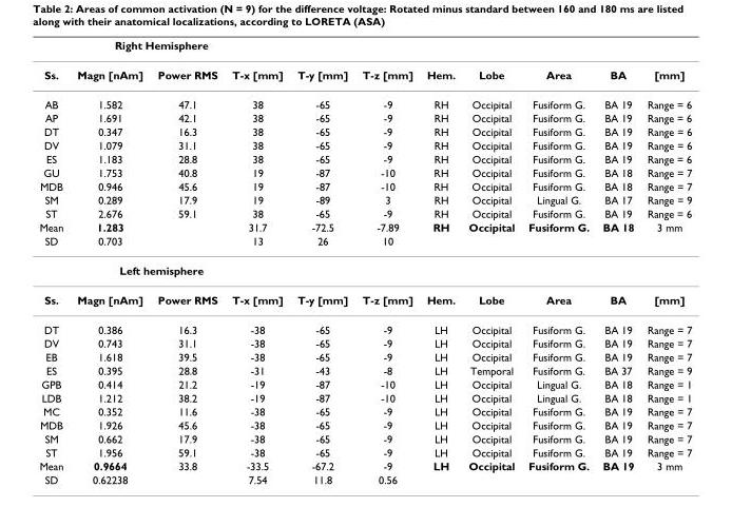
<table><thead><tr><td colspan="4">Right Hemisphere</td><td rowspan="2">T-y [mm]</td><td rowspan="2">T-z [mm]</td><td rowspan="2">Hem.</td><td rowspan="2">Lobe</td><td rowspan="2">Area</td><td rowspan="2">BA</td><td rowspan="2">[mm]</td></tr><tr><td>Ss.</td><td>Magn [nAm]</td><td>Power RMS</td><td>T-x [mm]</td></tr></thead><tbody><tr><td>AB</td><td>1.582</td><td>47.1</td><td>38</td><td>-65</td><td>-9</td><td>RH</td><td>Occipital</td><td>Fusiform G.</td><td>BA 19</td><td>Range = 6</td></tr><tr><td>AP</td><td>1.691</td><td>42.1</td><td>38</td><td>-65</td><td>-9</td><td>RH</td><td>Occipital</td><td>Fusiform G.</td><td>BA 19</td><td>Range = 6</td></tr><tr><td>DT</td><td>0.347</td><td>16.3</td><td>38</td><td>-65</td><td>-9</td><td>RH</td><td>Occipital</td><td>Fusiform G.</td><td>BA 19</td><td>Range = 6</td></tr><tr><td>DV</td><td>1.079</td><td>31.1</td><td>38</td><td>-65</td><td>-9</td><td>RH</td><td>Occipital</td><td>Fusiform G.</td><td>BA 19</td><td>Range = 6</td></tr><tr><td>ES</td><td>1.183</td><td>28.8</td><td>38</td><td>-65</td><td>-9</td><td>RH</td><td>Occipital</td><td>Fusiform G.</td><td>BA 19</td><td>Range = 6</td></tr><tr><td>GU</td><td>1.753</td><td>40.8</td><td>19</td><td>-87</td><td>-10</td><td>RH</td><td>Occipital</td><td>Fusiform G.</td><td>BA 18</td><td>Range = 7</td></tr><tr><td>MDB</td><td>0.946</td><td>45.6</td><td>19</td><td>-87</td><td>-10</td><td>RH</td><td>Occipital</td><td>Fusiform G.</td><td>BA 18</td><td>Range = 7</td></tr><tr><td>SM</td><td>0.289</td><td>17.9</td><td>19</td><td>-89</td><td>3</td><td>RH</td><td>Occipital</td><td>Lingual G.</td><td>BA 17</td><td>Range = 9</td></tr><tr><td>ST</td><td>2.676</td><td>59.1</td><td>38</td><td>-65</td><td>-9</td><td>RH</td><td>Occipital</td><td>Fusiform G.</td><td>BA 19</td><td>Range = 6</td></tr><tr><td>Mean</td><td>1.283</td><td></td><td>31.7</td><td>-72.5</td><td>-7.89</td><td>RH</td><td>Occipital</td><td>Fusiform G.</td><td>BA 18</td><td>3 mm</td></tr><tr><td>SD</td><td>0.703</td><td></td><td>13</td><td>26</td><td>10</td><td></td><td></td><td></td><td></td><td></td></tr><tr><td colspan="11">Left hemisphere</td></tr><tr><td>Ss.</td><td>Magn [nAm]</td><td>Power RMS</td><td>T-x [mm]</td><td>T-y [mm]</td><td>T-z [mm]</td><td>Hem.</td><td>Lobe</td><td>Area</td><td>BA</td><td>[mm]</td></tr><tr><td>DT</td><td>0.386</td><td>16.3</td><td>-38</td><td>-65</td><td>-9</td><td>LH</td><td>Occipital</td><td>Fusiform G.</td><td>BA 19</td><td>Range = 7</td></tr><tr><td>DV</td><td>0.743</td><td>31.1</td><td>-38</td><td>-65</td><td>-9</td><td>LH</td><td>Occipital</td><td>Fusiform G.</td><td>BA 19</td><td>Range = 7</td></tr><tr><td>EB</td><td>1.618</td><td>39.5</td><td>-38</td><td>-65</td><td>-9</td><td>LH</td><td>Occipital</td><td>Fusiform G.</td><td>BA 19</td><td>Range = 7</td></tr><tr><td>ES</td><td>0.395</td><td>28.8</td><td>-31</td><td>-43</td><td>-8</td><td>LH</td><td>Temporal</td><td>Fusiform G.</td><td>BA 37</td><td>Range = 9</td></tr><tr><td>GPB</td><td>0.414</td><td>21.2</td><td>-19</td><td>-87</td><td>-10</td><td>LH</td><td>Occipital</td><td>Lingual G.</td><td>BA 18</td><td>Range = 1</td></tr><tr><td>LDB</td><td>1.212</td><td>38.2</td><td>-19</td><td>-87</td><td>-10</td><td>LH</td><td>Occipital</td><td>Lingual G.</td><td>BA 18</td><td>Range = 1</td></tr><tr><td>MC</td><td>0.352</td><td>11.6</td><td>-38</td><td>-65</td><td>-9</td><td>LH</td><td>Occipital</td><td>Fusiform G.</td><td>BA 19</td><td>Range = 7</td></tr><tr><td>MDB</td><td>1.926</td><td>45.6</td><td>-38</td><td>-65</td><td>-9</td><td>LH</td><td>Occipital</td><td>Fusiform G.</td><td>BA 19</td><td>Range = 7</td></tr><tr><td>SM</td><td>0.662</td><td>17.9</td><td>-38</td><td>-65</td><td>-9</td><td>LH</td><td>Occipital</td><td>Fusiform G.</td><td>BA 19</td><td>Range = 7</td></tr><tr><td>ST</td><td>1.956</td><td>59.1</td><td>-38</td><td>-65</td><td>-9</td><td>LH</td><td>Occipital</td><td>Fusiform G.</td><td>BA 19</td><td>Range = 7</td></tr><tr><td>Mean</td><td>0.9664</td><td>33.8</td><td>-33.5</td><td>-67.2</td><td>-9</td><td>LH</td><td>Occipital</td><td>Fusiform G.</td><td>BA 19</td><td>3 mm</td></tr><tr><td>SD</td><td>0.62238</td><td></td><td>7.54</td><td>11.8</td><td>0.56</td><td></td><td></td><td></td><td></td><td></td></tr></tbody></table>